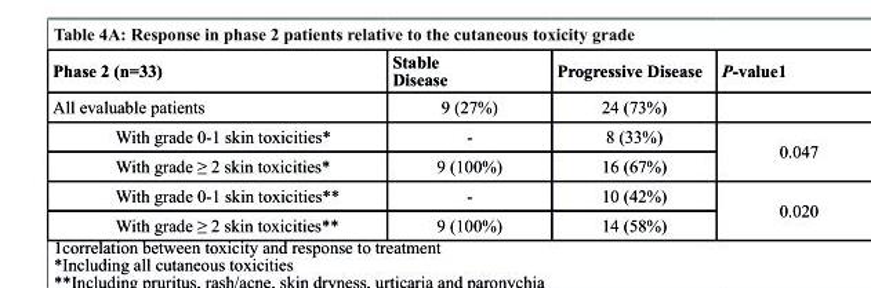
<table><thead><tr><td>Phase 2 (n=33)</td><td>stable disease</td><td>Progressive disease</td><td>P-value1</td></tr></thead><tbody><tr><td>All evaluable patients</td><td>9 (27%)</td><td>24 (73%)</td><td></td></tr><tr><td>With grade 0-1 skin toxicities*</td><td>-</td><td>8 (33%)</td><td rowspan="2">0.047</td></tr><tr><td>With grade ≥ 2 skin toxicities*</td><td>9 (100%)</td><td>16 (67%)</td></tr><tr><td>With grade 0-1 skin toxicities**</td><td>-</td><td>10 (42%)</td><td rowspan="2">0.020</td></tr><tr><td>With grade ≥ 2 skin toxicities**</td><td>9 (100%)</td><td>14 (58%)</td></tr></tbody></table>